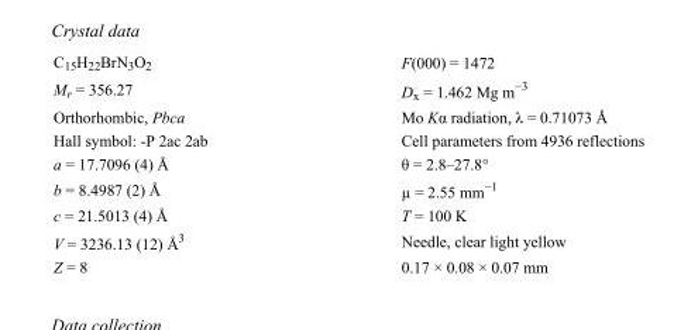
<table><tbody><tr><td>C<sub>15</sub>H<sub>22</sub>BrN<sub>3</sub>O<sub>2</sub></td><td>F(000) = 1472</td></tr><tr><td>M<sub>r</sub> = 356.27</td><td>D<sub>x</sub> = 1.462 Mg m<sup>−3</sup></td></tr><tr><td>Orthorhombic, Pbca</td><td>Mo Kα radiation, λ = 0.71073 Å</td></tr><tr><td>Hall symbol: -P 2ac 2ab</td><td>Cell parameters from 4936 reflections</td></tr><tr><td>a = 17.7096 (4) Å</td><td>θ = 2.8–27.8°</td></tr><tr><td>b = 8.4987 (2) Å</td><td>µ = 2.55 mm<sup>−1</sup></td></tr><tr><td>c = 21.5013 (4) Å</td><td>T = 100 K</td></tr><tr><td>V = 3236.13 (12) Å<sup>3</sup></td><td>Needle, clear light yellow</td></tr><tr><td>Z = 8</td><td>0.17 × 0.08 × 0.07 mm</td></tr></tbody></table>